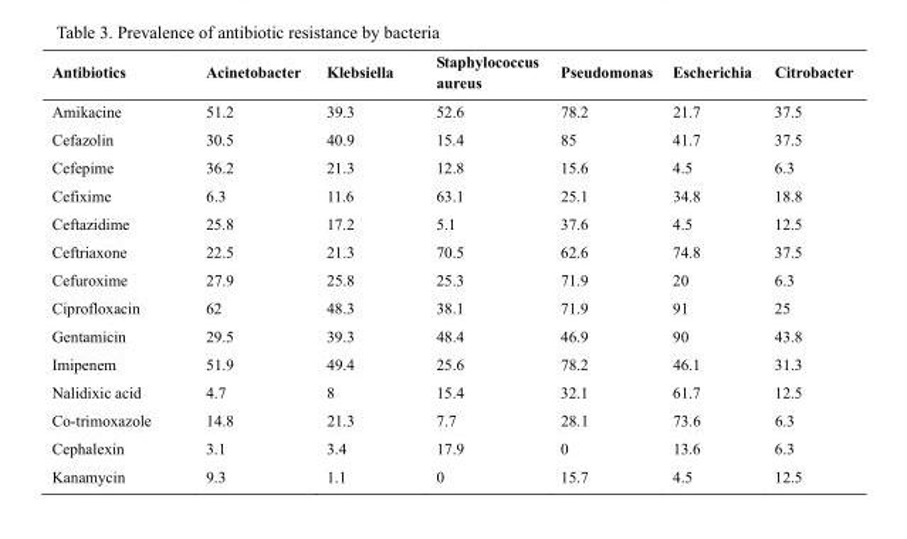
<table><thead><tr><td>Antibiotics</td><td>Acinetobacter</td><td>Klebsiella</td><td>Staphylococcus aureus</td><td>Pseudomonas</td><td>Escherichia</td><td>Citrobacter</td></tr></thead><tbody><tr><td>Amikacine</td><td>51.2</td><td>39.3</td><td>52.6</td><td>78.2</td><td>21.7</td><td>37.5</td></tr><tr><td>Cefazolin</td><td>30.5</td><td>40.9</td><td>15.4</td><td>85</td><td>41.7</td><td>37.5</td></tr><tr><td>Cefepime</td><td>36.2</td><td>21.3</td><td>12.8</td><td>15.6</td><td>4.5</td><td>6.3</td></tr><tr><td>Cefixime</td><td>6.3</td><td>11.6</td><td>63.1</td><td>25.1</td><td>34.8</td><td>18.8</td></tr><tr><td>Ceftazidime</td><td>25.8</td><td>17.2</td><td>5.1</td><td>37.6</td><td>4.5</td><td>12.5</td></tr><tr><td>Ceftriaxone</td><td>22.5</td><td>21.3</td><td>70.5</td><td>62.6</td><td>74.8</td><td>37.5</td></tr><tr><td>Cefuroxime</td><td>27.9</td><td>25.8</td><td>25.3</td><td>71.9</td><td>20</td><td>6.3</td></tr><tr><td>Ciprofloxacin</td><td>62</td><td>48.3</td><td>38.1</td><td>71.9</td><td>91</td><td>25</td></tr><tr><td>Gentamicin</td><td>29.5</td><td>39.3</td><td>48.4</td><td>46.9</td><td>90</td><td>43.8</td></tr><tr><td>Imipenem</td><td>51.9</td><td>49.4</td><td>25.6</td><td>78.2</td><td>46.1</td><td>31.3</td></tr><tr><td>Nalidixic acid</td><td>4.7</td><td>8</td><td>15.4</td><td>32.1</td><td>61.7</td><td>12.5</td></tr><tr><td>Co-trimoxazole</td><td>14.8</td><td>21.3</td><td>7.7</td><td>28.1</td><td>73.6</td><td>6.3</td></tr><tr><td>Cephalexin</td><td>3.1</td><td>3.4</td><td>17.9</td><td>0</td><td>13.6</td><td>6.3</td></tr><tr><td>Kanamycin</td><td>9.3</td><td>1.1</td><td>0</td><td>15.7</td><td>4.5</td><td>12.5</td></tr></tbody></table>